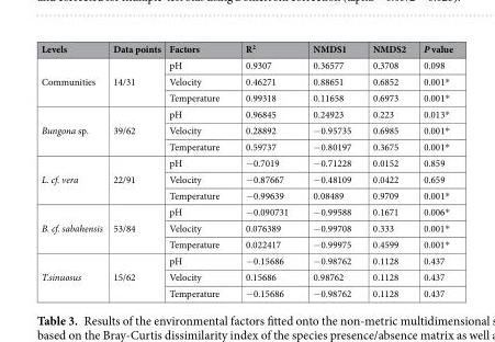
<table><thead><tr><td>Levels</td><td>Data points</td><td>Factors</td><td>R<sup>2</sup></td><td>NMDS1</td><td>NMDS2</td><td>P value</td></tr></thead><tbody><tr><td rowspan="3">Communities</td><td rowspan="3">14/31</td><td>pH</td><td>0.9307</td><td>0.36577</td><td>0.3708</td><td>0.098</td></tr><tr><td>Velocity</td><td>0.46271</td><td>0.88651</td><td>0.6852</td><td>0.001*</td></tr><tr><td>Temperature</td><td>0.99318</td><td>0.11658</td><td>0.6973</td><td>0.001*</td></tr><tr><td rowspan="3">Bungona sp.</td><td rowspan="3">39/62</td><td>pH</td><td>0.96845</td><td>0.24923</td><td>0.223</td><td>0.013*</td></tr><tr><td>Velocity</td><td>0.28892</td><td>−0.95735</td><td>0.6985</td><td>0.001*</td></tr><tr><td>Temperature</td><td>0.59737</td><td>−0.80197</td><td>0.3675</td><td>0.001*</td></tr><tr><td rowspan="3">L. cf. vera</td><td rowspan="3">22/91</td><td>pH</td><td>−0.7019</td><td>−0.71228</td><td>0.0152</td><td>0.859</td></tr><tr><td>Velocity</td><td>−0.87667</td><td>−0.48109</td><td>0.0422</td><td>0.659</td></tr><tr><td>Temperature</td><td>−0.99639</td><td>0.08489</td><td>0.9709</td><td>0.001*</td></tr><tr><td rowspan="3">B. cf. sabahensis</td><td rowspan="3">53/84</td><td>pH</td><td>−0.090731</td><td>−0.99588</td><td>0.1671</td><td>0.006*</td></tr><tr><td>Velocity</td><td>0.076389</td><td>−0.99708</td><td>0.333</td><td>0.001*</td></tr><tr><td>Temperature</td><td>0.022417</td><td>−0.99975</td><td>0.4599</td><td>0.001*</td></tr><tr><td rowspan="3">T.sinuosus</td><td rowspan="3">15/62</td><td>pH</td><td>−0.15686</td><td>−0.98762</td><td>0.1128</td><td>0.437</td></tr><tr><td>Velocity</td><td>0.15686</td><td>0.98762</td><td>0.1128</td><td>0.437</td></tr><tr><td>Temperature</td><td>−0.15686</td><td>−0.98762</td><td>0.1128</td><td>0.437</td></tr></tbody></table>